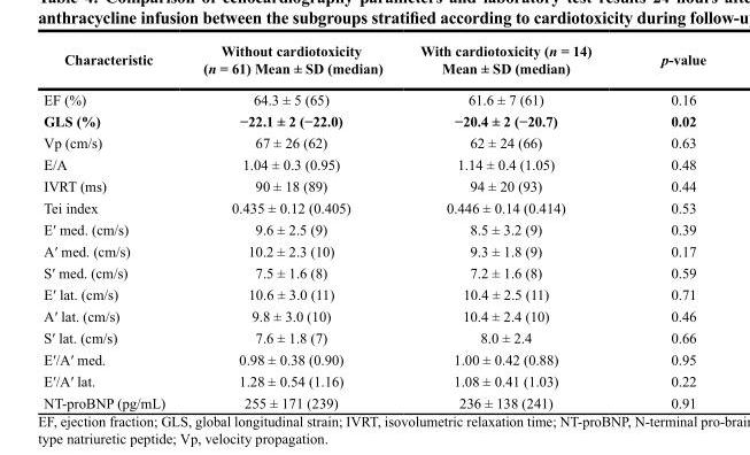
<table><thead><tr><td>Characteristic</td><td>Without cardiotoxicity (n = 61) Mean ± SD (median)</td><td>With cardiotoxicity (n = 14) Mean ± SD (median)</td><td>p-value</td></tr></thead><tbody><tr><td>EF (%)</td><td>64.3 ± 5 (65)</td><td>61.6 ± 7 (61)</td><td>0.16</td></tr><tr><td>GLS (%)</td><td>−22.1 ± 2 (−22.0)</td><td>−20.4 ± 2 (−20.7)</td><td>0.02</td></tr><tr><td>Vp (cm/s)</td><td>67 ± 26 (62)</td><td>62 ± 24 (66)</td><td>0.63</td></tr><tr><td>E/A</td><td>1.04 ± 0.3 (0.95)</td><td>1.14 ± 0.4 (1.05)</td><td>0.48</td></tr><tr><td>IVRT (ms)</td><td>90 ± 18 (89)</td><td>94 ± 20 (93)</td><td>0.44</td></tr><tr><td>Tei index</td><td>0.435 ± 0.12 (0.405)</td><td>0.446 ± 0.14 (0.414)</td><td>0.53</td></tr><tr><td>E′ med. (cm/s)</td><td>9.6 ± 2.5 (9)</td><td>8.5 ± 3.2 (9)</td><td>0.39</td></tr><tr><td>A′ med. (cm/s)</td><td>10.2 ± 2.3 (10)</td><td>9.3 ± 1.8 (9)</td><td>0.17</td></tr><tr><td>S′ med. (cm/s)</td><td>7.5 ± 1.6 (8)</td><td>7.2 ± 1.6 (8)</td><td>0.59</td></tr><tr><td>E′ lat. (cm/s)</td><td>10.6 ± 3.0 (11)</td><td>10.4 ± 2.5 (11)</td><td>0.71</td></tr><tr><td>A′ lat. (cm/s)</td><td>9.8 ± 3.0 (10)</td><td>10.4 ± 2.4 (10)</td><td>0.46</td></tr><tr><td>S′ lat. (cm/s)</td><td>7.6 ± 1.8 (7)</td><td>8.0 ± 2.4</td><td>0.66</td></tr><tr><td>E′/A′ med.</td><td>0.98 ± 0.38 (0.90)</td><td>1.00 ± 0.42 (0.88)</td><td>0.95</td></tr><tr><td>E′/A′ lat.</td><td>1.28 ± 0.54 (1.16)</td><td>1.08 ± 0.41 (1.03)</td><td>0.22</td></tr><tr><td>NT-proBNP (pg/mL)</td><td>255 ± 171 (239)</td><td>236 ± 138 (241)</td><td>0.91</td></tr></tbody></table>